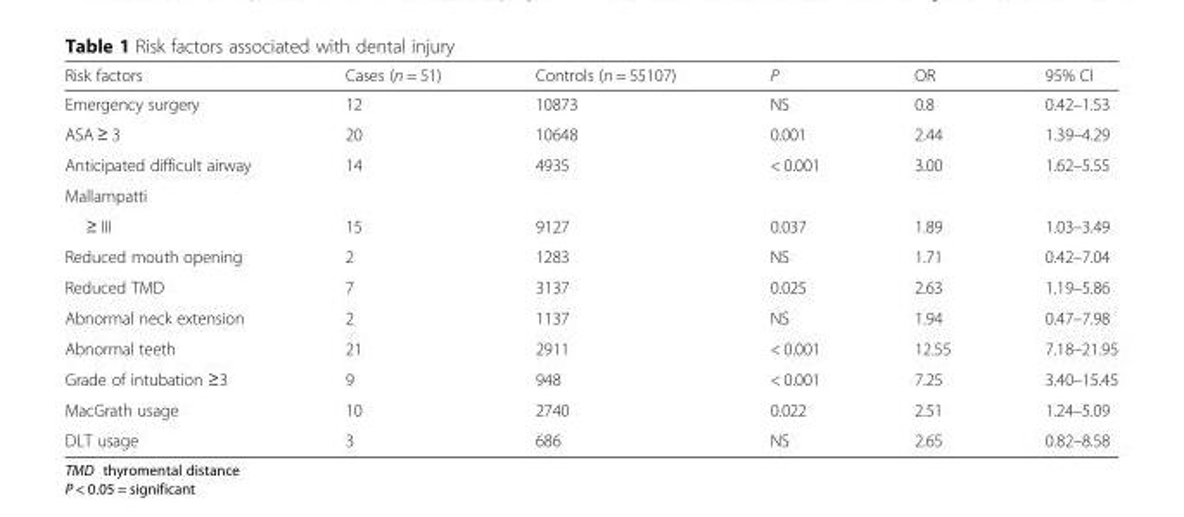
<table><thead><tr><td>Risk factors</td><td>Cases (n = 51)</td><td>Controls (n = 55107)</td><td>P</td><td>OR</td><td>95% CI</td></tr></thead><tbody><tr><td>Emergency surgery</td><td>12</td><td>10873</td><td>NS</td><td>0.8</td><td>0.42–1.53</td></tr><tr><td>ASA ≥ 3</td><td>20</td><td>10648</td><td>0.001</td><td>2.44</td><td>1.39–4.29</td></tr><tr><td>Anticipated difficult airway</td><td>14</td><td>4935</td><td>&lt; 0.001</td><td>3.00</td><td>1.62–5.55</td></tr><tr><td colspan="6">Mallampatti</td></tr><tr><td>≥ III</td><td>15</td><td>9127</td><td>0.037</td><td>1.89</td><td>1.03–3.49</td></tr><tr><td>Reduced mouth opening</td><td>2</td><td>1283</td><td>NS</td><td>1.71</td><td>0.42–7.04</td></tr><tr><td>Reduced TMD</td><td>7</td><td>3137</td><td>0.025</td><td>2.63</td><td>1.19–5.86</td></tr><tr><td>Abnormal neck extension</td><td>2</td><td>1137</td><td>NS</td><td>1.94</td><td>0.47–7.98</td></tr><tr><td>Abnormal teeth</td><td>21</td><td>2911</td><td>&lt; 0.001</td><td>12.55</td><td>7.18–21.95</td></tr><tr><td>Grade of intubation ≥3</td><td>9</td><td>948</td><td>&lt; 0.001</td><td>7.25</td><td>3.40–15.45</td></tr><tr><td>MacGrath usage</td><td>10</td><td>2740</td><td>0.022</td><td>2.51</td><td>1.24–5.09</td></tr><tr><td>DLT usage</td><td>3</td><td>686</td><td>NS</td><td>2.65</td><td>0.82–8.58</td></tr></tbody></table>